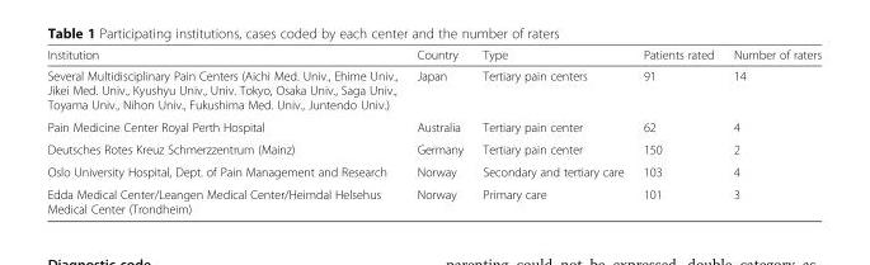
<table><thead><tr><td>Institution</td><td>Country</td><td>Type</td><td>Patients rated</td><td>Number of raters</td></tr></thead><tbody><tr><td>Several Multidisciplinary Pain Centers (Aichi Med. Univ., Ehime Univ., Jikei Med. Univ., Kyushyu Univ., Univ. Tokyo, Osaka Univ., Saga Univ., Toyama Univ., Nihon Univ., Fukushima Med. Univ., Juntendo Univ.)</td><td>Japan</td><td>Tertiary pain centers</td><td>91</td><td>14</td></tr><tr><td>Pain Medicine Center Royal Perth Hospital</td><td>Australia</td><td>Tertiary pain center</td><td>62</td><td>4</td></tr><tr><td>Deutsches Rotes Kreuz Schmerzzentrum (Mainz)</td><td>Germany</td><td>Tertiary pain center</td><td>150</td><td>2</td></tr><tr><td>Oslo University Hospital, Dept. of Pain Management and Research</td><td>Norway</td><td>Secondary and tertiary care</td><td>103</td><td>4</td></tr><tr><td>Edda Medical Center/Leangen Medical Center/Heimdal Helsehus Medical Center (Trondheim)</td><td>Norway</td><td>Primary care</td><td>101</td><td>3</td></tr></tbody></table>